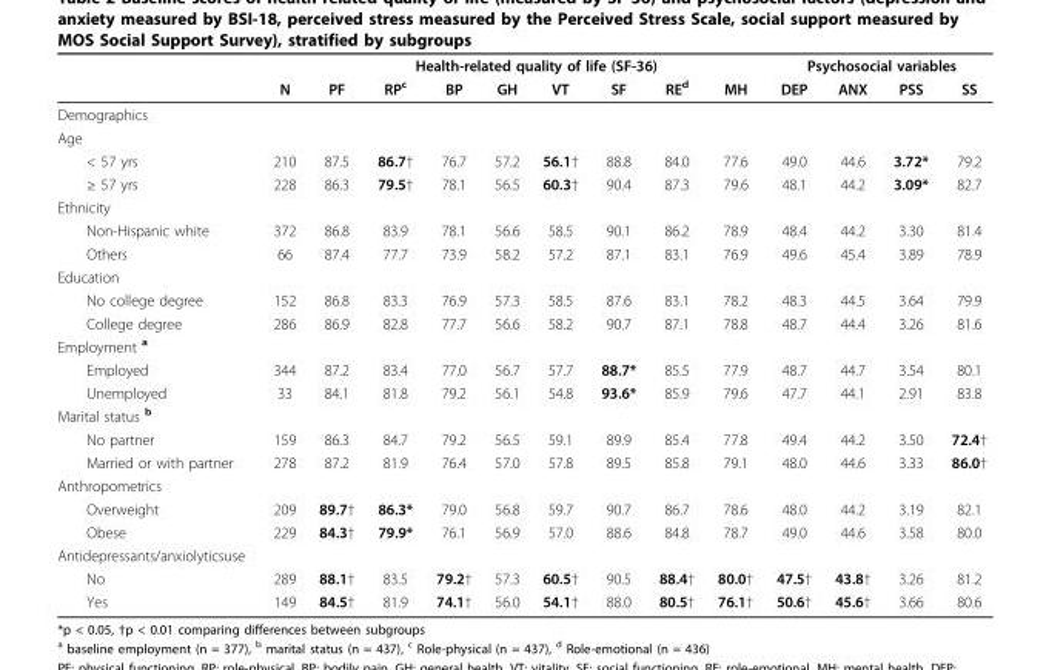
<table><thead><tr><td rowspan="2"></td><td rowspan="2">N</td><td colspan="8">Health-related quality of life (SF-36)</td><td colspan="4">Psychosocial variables</td></tr><tr><td>PF</td><td>RP<sup>c</sup></td><td>BP</td><td>GH</td><td>VT</td><td>SF</td><td>RE<sup>d</sup></td><td>MH</td><td>DEP</td><td>ANX</td><td>PSS</td><td>SS</td></tr></thead><tbody><tr><td colspan="14">Demographics</td></tr><tr><td colspan="14">Age</td></tr><tr><td>&lt; 57 yrs</td><td>210</td><td>87.5</td><td>86.7†</td><td>76.7</td><td>57.2</td><td>56.1†</td><td>88.8</td><td>84.0</td><td>77.6</td><td>49.0</td><td>44.6</td><td>3.72*</td><td>79.2</td></tr><tr><td>≥ 57 yrs</td><td>228</td><td>86.3</td><td>79.5†</td><td>78.1</td><td>56.5</td><td>60.3†</td><td>90.4</td><td>87.3</td><td>79.6</td><td>48.1</td><td>44.2</td><td>3.09*</td><td>82.7</td></tr><tr><td colspan="14">Ethnicity</td></tr><tr><td>Non-Hispanic white</td><td>372</td><td>86.8</td><td>83.9</td><td>78.1</td><td>56.6</td><td>58.5</td><td>90.1</td><td>86.2</td><td>78.9</td><td>48.4</td><td>44.2</td><td>3.30</td><td>81.4</td></tr><tr><td>Others</td><td>66</td><td>87.4</td><td>77.7</td><td>73.9</td><td>58.2</td><td>57.2</td><td>87.1</td><td>83.1</td><td>76.9</td><td>49.6</td><td>45.4</td><td>3.89</td><td>78.9</td></tr><tr><td colspan="14">Education</td></tr><tr><td>No college degree</td><td>152</td><td>86.8</td><td>83.3</td><td>76.9</td><td>57.3</td><td>58.5</td><td>87.6</td><td>83.1</td><td>78.2</td><td>48.3</td><td>44.5</td><td>3.64</td><td>79.9</td></tr><tr><td>College degree</td><td>286</td><td>86.9</td><td>82.8</td><td>77.7</td><td>56.6</td><td>58.2</td><td>90.7</td><td>87.1</td><td>78.8</td><td>48.7</td><td>44.4</td><td>3.26</td><td>81.6</td></tr><tr><td colspan="14">Employment <sup>a</sup></td></tr><tr><td>Employed</td><td>344</td><td>87.2</td><td>83.4</td><td>77.0</td><td>56.7</td><td>57.7</td><td>88.7*</td><td>85.5</td><td>77.9</td><td>48.7</td><td>44.7</td><td>3.54</td><td>80.1</td></tr><tr><td>Unemployed</td><td>33</td><td>84.1</td><td>81.8</td><td>79.2</td><td>56.1</td><td>54.8</td><td>93.6*</td><td>85.9</td><td>79.6</td><td>47.7</td><td>44.1</td><td>2.91</td><td>83.8</td></tr><tr><td colspan="14">Marital status <sup>b</sup></td></tr><tr><td>No partner</td><td>159</td><td>86.3</td><td>84.7</td><td>79.2</td><td>56.5</td><td>59.1</td><td>89.9</td><td>85.4</td><td>77.8</td><td>49.4</td><td>44.2</td><td>3.50</td><td>72.4†</td></tr><tr><td>Married or with partner</td><td>278</td><td>87.2</td><td>81.9</td><td>76.4</td><td>57.0</td><td>57.8</td><td>89.5</td><td>85.8</td><td>79.1</td><td>48.0</td><td>44.6</td><td>3.33</td><td>86.0†</td></tr><tr><td colspan="14">Anthropometrics</td></tr><tr><td>Overweight</td><td>209</td><td>89.7†</td><td>86.3*</td><td>79.0</td><td>56.8</td><td>59.7</td><td>90.7</td><td>86.7</td><td>78.6</td><td>48.0</td><td>44.2</td><td>3.19</td><td>82.1</td></tr><tr><td>Obese</td><td>229</td><td>84.3†</td><td>79.9*</td><td>76.1</td><td>56.9</td><td>57.0</td><td>88.6</td><td>84.8</td><td>78.7</td><td>49.0</td><td>44.6</td><td>3.58</td><td>80.0</td></tr><tr><td colspan="14">Antidepressants/anxiolyticsuse</td></tr><tr><td>No</td><td>289</td><td>88.1†</td><td>83.5</td><td>79.2†</td><td>57.3</td><td>60.5†</td><td>90.5</td><td>88.4†</td><td>80.0†</td><td>47.5†</td><td>43.8†</td><td>3.26</td><td>81.2</td></tr><tr><td>Yes</td><td>149</td><td>84.5†</td><td>81.9</td><td>74.1†</td><td>56.0</td><td>54.1†</td><td>88.0</td><td>80.5†</td><td>76.1†</td><td>50.6†</td><td>45.6†</td><td>3.66</td><td>80.6</td></tr></tbody></table>